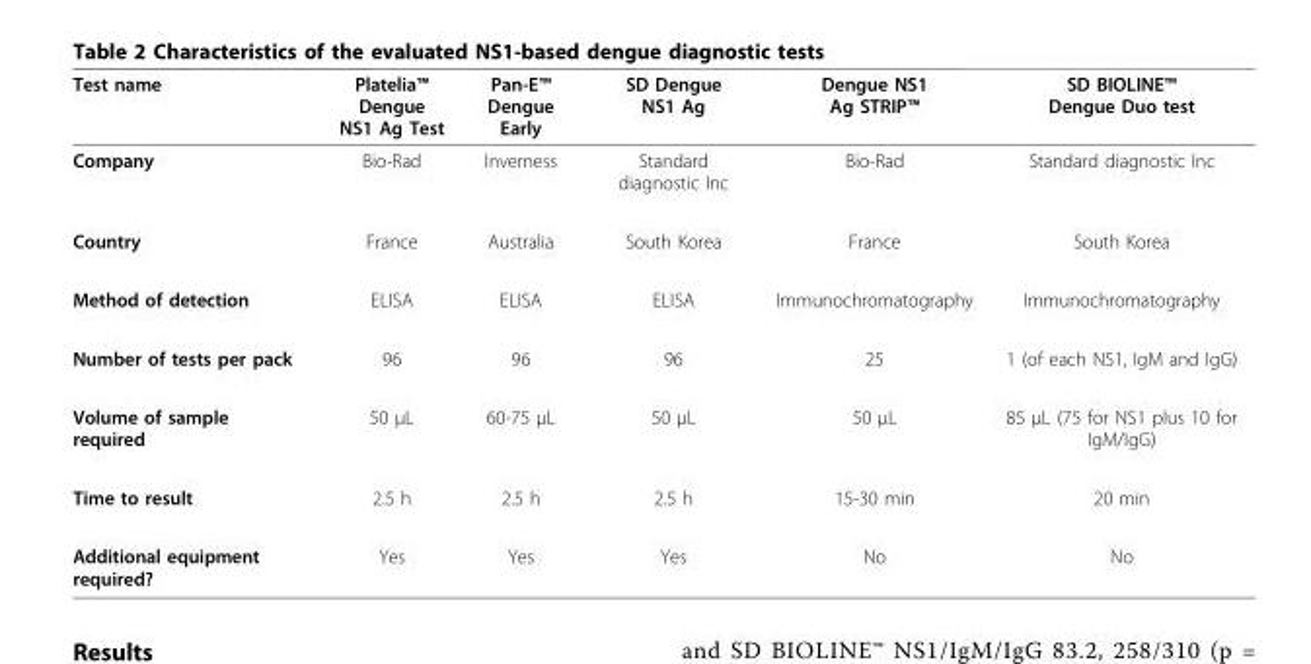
<table><thead><tr><td>Test name</td><td>Platelia™ Dengue NS1 Ag Test</td><td>Pan-E™ Dengue Early</td><td>SD Dengue NS1 Ag</td><td>Dengue NS1 Ag STRIP™</td><td>SD BIOLINE™ Dengue Duo test</td></tr></thead><tbody><tr><td>Company</td><td>Bio-Rad</td><td>Inverness</td><td>Standard diagnostic Inc</td><td>Bio-Rad</td><td>Standard diagnostic Inc</td></tr><tr><td>Country</td><td>France</td><td>Australia</td><td>South Korea</td><td>France</td><td>South Korea</td></tr><tr><td>Method of detection</td><td>ELISA</td><td>ELISA</td><td>ELISA</td><td>Immunochromatography</td><td>Immunochromatography</td></tr><tr><td>Number of tests per pack</td><td>96</td><td>96</td><td>96</td><td>25</td><td>1 (of each NS1, IgM and IgG)</td></tr><tr><td>Volume of sample required</td><td>50 μL</td><td>60-75 μL</td><td>50 μL</td><td>50 μL</td><td>85 μL (75 for NS1 plus 10 for IgM/IgG)</td></tr><tr><td>Time to result</td><td>2.5 h</td><td>2.5 h</td><td>2.5 h</td><td>15-30 min</td><td>20 min</td></tr><tr><td>Additional equipment required?</td><td>Yes</td><td>Yes</td><td>Yes</td><td>No</td><td>No</td></tr></tbody></table>